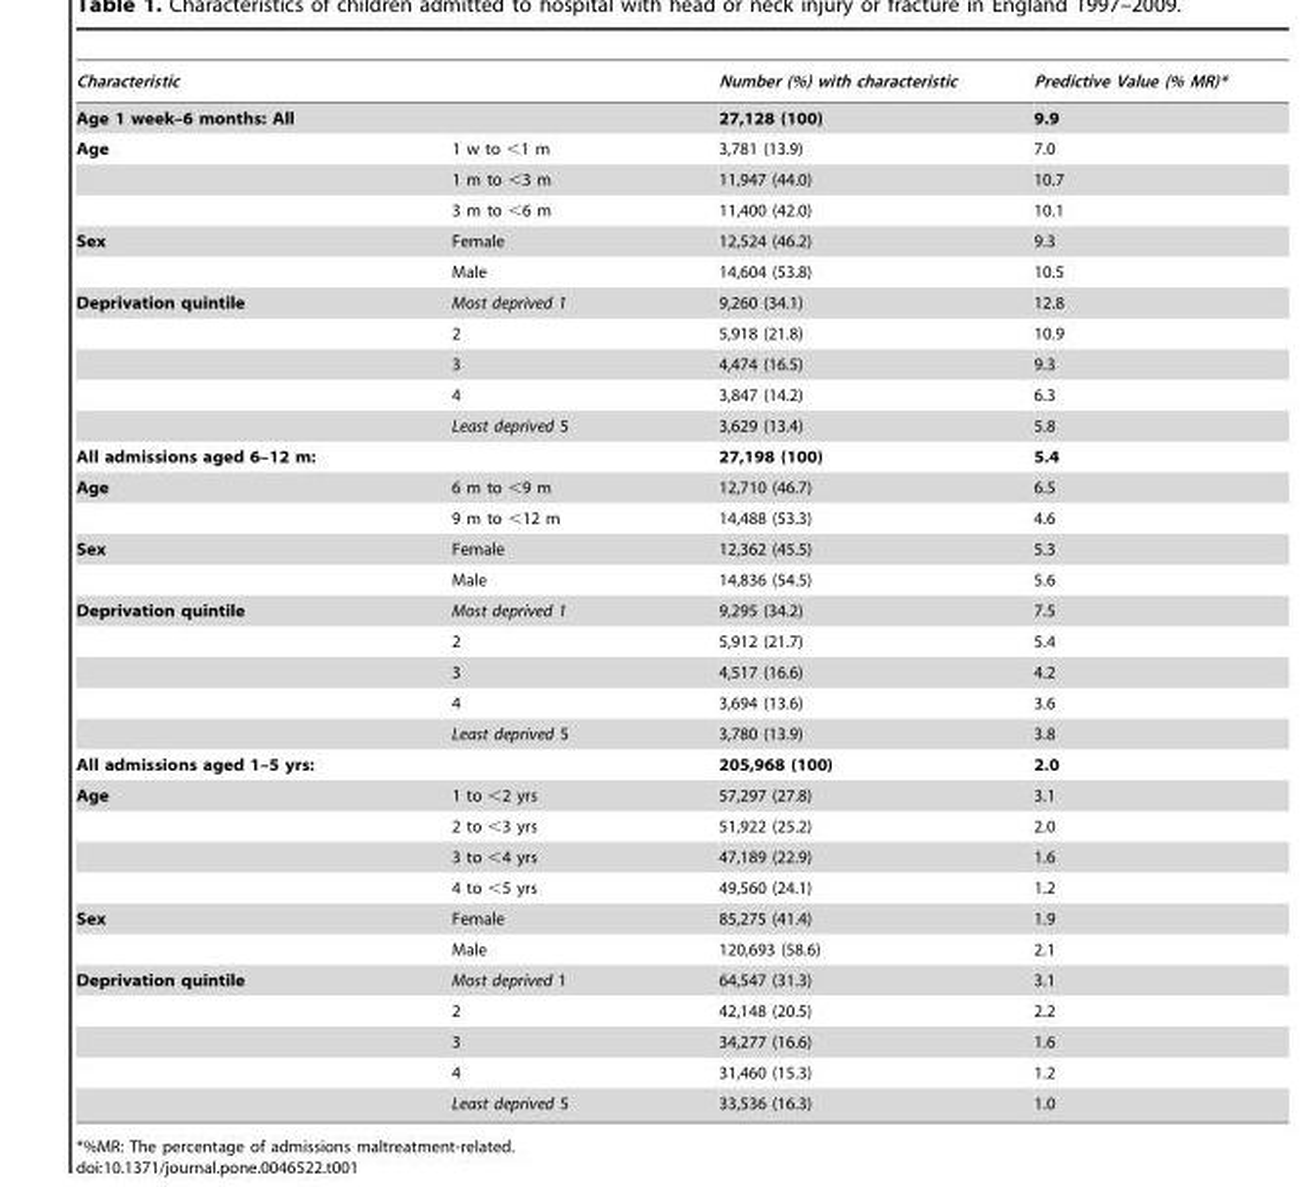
<table><thead><tr><td rowspan="2" colspan="2">Characteristic Age 1 week–6 months: All</td><td rowspan="3">Number (%) with characteristic 27,128 (100) 3,781 (13.9)</td><td rowspan="3">Predictive Value (% MR)* 9.9 7.0</td></tr><tr></tr><tr><td>Age</td><td>1 w to &lt;1 m</td></tr></thead><tbody><tr><td></td><td>1 m to &lt;3 m</td><td>11,947 (44.0)</td><td>10.7</td></tr><tr><td></td><td>3 m to &lt;6 m</td><td>11,400 (42.0)</td><td>10.1</td></tr><tr><td rowspan="2">Sex</td><td>Female</td><td>12,524 (46.2)</td><td>9.3</td></tr><tr><td>Male</td><td>14,604 (53.8)</td><td>10.5</td></tr><tr><td rowspan="5">Deprivation quintile</td><td>Most deprived 1</td><td>9,260 (34.1)</td><td>12.8</td></tr><tr><td>2</td><td>5,918 (21.8)</td><td>10.9</td></tr><tr><td>3</td><td>4,474 (16.5)</td><td>9.3</td></tr><tr><td>4</td><td>3,847 (14.2)</td><td>6.3</td></tr><tr><td>Least deprived 5</td><td>3,629 (13.4)</td><td>5.8</td></tr><tr><td colspan="2">All admissions aged 6–12 m:</td><td>27,198 (100)</td><td>5.4</td></tr><tr><td rowspan="2">Age</td><td>6 m to &lt;9 m</td><td>12,710 (46.7)</td><td>6.5</td></tr><tr><td>9 m to &lt;12 m</td><td>14,488 (53.3)</td><td>4.6</td></tr><tr><td rowspan="2">Sex</td><td>Female</td><td>12,362 (45.5)</td><td>5.3</td></tr><tr><td>Male</td><td>14,836 (54.5)</td><td>5.6</td></tr><tr><td rowspan="5">Deprivation quintile</td><td>Most deprived 1</td><td>9,295 (34.2)</td><td>7.5</td></tr><tr><td>2</td><td>5,912 (21.7)</td><td>5.4</td></tr><tr><td>3</td><td>4,517 (16.6)</td><td>4.2</td></tr><tr><td>4</td><td>3,694 (13.6)</td><td>3.6</td></tr><tr><td>Least deprived 5</td><td>3,780 (13.9)</td><td>3.8</td></tr><tr><td colspan="2">All admissions aged 1–5 yrs:</td><td>205,968 (100)</td><td>2.0</td></tr><tr><td rowspan="4">Age</td><td>1 to &lt;2 yrs</td><td>57,297 (27.8)</td><td>3.1</td></tr><tr><td>2 to &lt;3 yrs</td><td>51,922 (25.2)</td><td>2.0</td></tr><tr><td>3 to &lt;4 yrs</td><td>47,189 (22.9)</td><td>1.6</td></tr><tr><td>4 to &lt;5 yrs</td><td>49,560 (24.1)</td><td>1.2</td></tr><tr><td rowspan="2">Sex</td><td>Female</td><td>85,275 (41.4)</td><td>1.9</td></tr><tr><td>Male</td><td>120,693 (58.6)</td><td>2.1</td></tr><tr><td rowspan="5">Deprivation quintile</td><td>Most deprived 1</td><td>64,547 (31.3)</td><td>3.1</td></tr><tr><td>2</td><td>42,148 (20.5)</td><td>2.2</td></tr><tr><td>3</td><td>34,277 (16.6)</td><td>1.6</td></tr><tr><td>4</td><td>31,460 (15.3)</td><td>1.2</td></tr><tr><td>Least deprived 5</td><td>33,536 (16.3)</td><td>1.0</td></tr></tbody></table>